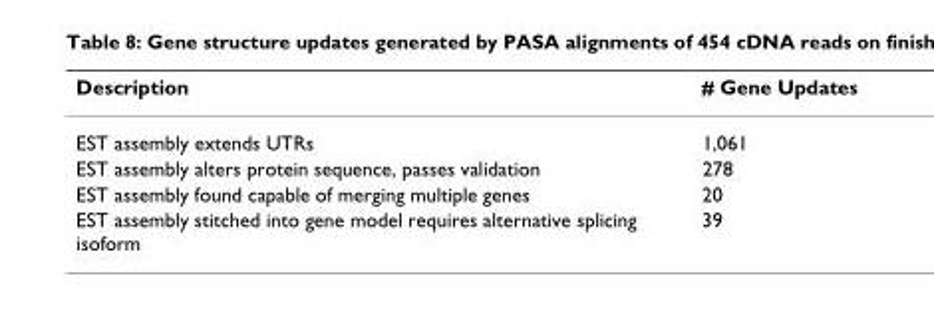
<table><thead><tr><td>Description</td><td># Gene Updates</td></tr></thead><tbody><tr><td>EST assembly extends UTRs</td><td>1,061</td></tr><tr><td>EST assembly alters protein sequence, passes validation</td><td>278</td></tr><tr><td>EST assembly found capable of merging multiple genes</td><td>20</td></tr><tr><td>EST assembly stitched into gene model requires alternative splicing isoform</td><td>39</td></tr></tbody></table>